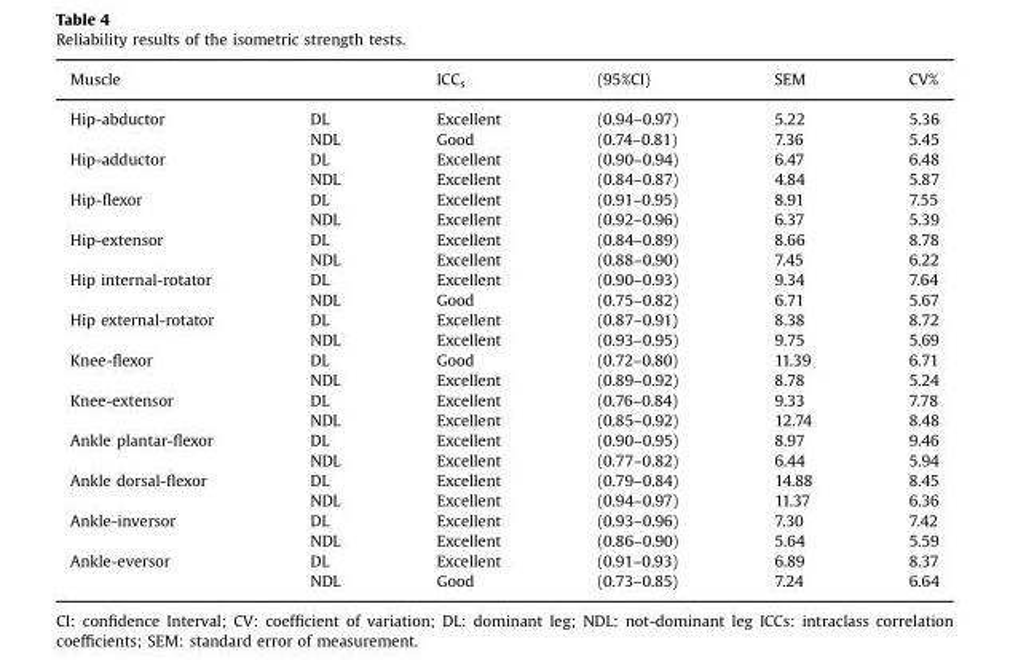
<table><thead><tr><td>Muscle</td><td></td><td>ICC<sub>s</sub></td><td>(95%CI)</td><td>SEM</td><td>CV%</td></tr></thead><tbody><tr><td rowspan="2">Hip-abductor</td><td>DL</td><td>Excellent</td><td>(0.94–0.97)</td><td>5.22</td><td>5.36</td></tr><tr><td>NDL</td><td>Good</td><td>(0.74–0.81)</td><td>7.36</td><td>5.45</td></tr><tr><td rowspan="2">Hip-adductor</td><td>DL</td><td>Excellent</td><td>(0.90–0.94)</td><td>6.47</td><td>6.48</td></tr><tr><td>NDL</td><td>Excellent</td><td>(0.84–0.87)</td><td>4.84</td><td>5.87</td></tr><tr><td rowspan="2">Hip-flexor</td><td>DL</td><td>Excellent</td><td>(0.91–0.95)</td><td>8.91</td><td>7.55</td></tr><tr><td>NDL</td><td>Excellent</td><td>(0.92–0.96)</td><td>6.37</td><td>5.39</td></tr><tr><td rowspan="2">Hip-extensor</td><td>DL</td><td>Excellent</td><td>(0.84–0.89)</td><td>8.66</td><td>8.78</td></tr><tr><td>NDL</td><td>Excellent</td><td>(0.88–0.90)</td><td>7.45</td><td>6.22</td></tr><tr><td rowspan="2">Hip internal-rotator</td><td>DL</td><td>Excellent</td><td>(0.90–0.93)</td><td>9.34</td><td>7.64</td></tr><tr><td>NDL</td><td>Good</td><td>(0.75–0.82)</td><td>6.71</td><td>5.67</td></tr><tr><td rowspan="2">Hip external-rotator</td><td>DL</td><td>Excellent</td><td>(0.87–0.91)</td><td>8.38</td><td>8.72</td></tr><tr><td>NDL</td><td>Excellent</td><td>(0.93–0.95)</td><td>9.75</td><td>5.69</td></tr><tr><td rowspan="2">Knee-flexor</td><td>DL</td><td>Good</td><td>(0.72–0.80)</td><td>11.39</td><td>6.71</td></tr><tr><td>NDL</td><td>Excellent</td><td>(0.89–0.92)</td><td>8.78</td><td>5.24</td></tr><tr><td rowspan="2">Knee-extensor</td><td>DL</td><td>Excellent</td><td>(0.76–0.84)</td><td>9.33</td><td>7.78</td></tr><tr><td>NDL</td><td>Excellent</td><td>(0.85–0.92)</td><td>12.74</td><td>8.48</td></tr><tr><td rowspan="2">Ankle plantar-flexor</td><td>DL</td><td>Excellent</td><td>(0.90–0.95)</td><td>8.97</td><td>9.46</td></tr><tr><td>NDL</td><td>Excellent</td><td>(0.77–0.82)</td><td>6.44</td><td>5.94</td></tr><tr><td rowspan="2">Ankle dorsal-flexor</td><td>DL</td><td>Excellent</td><td>(0.79–0.84)</td><td>14.88</td><td>8.45</td></tr><tr><td>NDL</td><td>Excellent</td><td>(0.94–0.97)</td><td>11.37</td><td>6.36</td></tr><tr><td rowspan="2">Ankle-inversor</td><td>DL</td><td>Excellent</td><td>(0.93–0.96)</td><td>7.30</td><td>7.42</td></tr><tr><td>NDL</td><td>Excellent</td><td>(0.86–0.90)</td><td>5.64</td><td>5.59</td></tr><tr><td rowspan="2">Ankle-eversor</td><td>DL</td><td>Excellent</td><td>(0.91–0.93)</td><td>6.89</td><td>8.37</td></tr><tr><td>NDL</td><td>Good</td><td>(0.73–0.85)</td><td>7.24</td><td>6.64</td></tr></tbody></table>